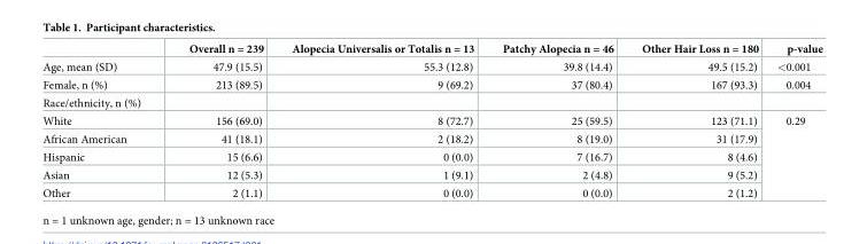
<table><thead><tr><td></td><td>Overall n = 239</td><td>Alopecia Universalis or Totalis n = 13</td><td>Patchy Alopecia n = 46</td><td>Other Hair Loss n = 180</td><td>p-value</td></tr></thead><tbody><tr><td>Age, mean (SD)</td><td>47.9 (15.5)</td><td>55.3 (12.8)</td><td>39.8 (14.4)</td><td>49.5 (15.2)</td><td>&lt;0.001</td></tr><tr><td>Female, n (%)</td><td>213 (89.5)</td><td>9 (69.2)</td><td>37 (80.4)</td><td>167 (93.3)</td><td>0.004</td></tr><tr><td colspan="6">Race/ethnicity, n (%)</td></tr><tr><td>White</td><td>156 (69.0)</td><td>8 (72.7)</td><td>25 (59.5)</td><td>123 (71.1)</td><td rowspan="5">0.29</td></tr><tr><td>African American</td><td>41 (18.1)</td><td>2 (18.2)</td><td>8 (19.0)</td><td>31 (17.9)</td></tr><tr><td>Hispanic</td><td>15 (6.6)</td><td>0 (0.0)</td><td>7 (16.7)</td><td>8 (4.6)</td></tr><tr><td>Asian</td><td>12 (5.3)</td><td>1 (9.1)</td><td>2 (4.8)</td><td>9 (5.2)</td></tr><tr><td>Other</td><td>2 (1.1)</td><td>0 (0.0)</td><td>0 (0.0)</td><td>2 (1.2)</td></tr></tbody></table>